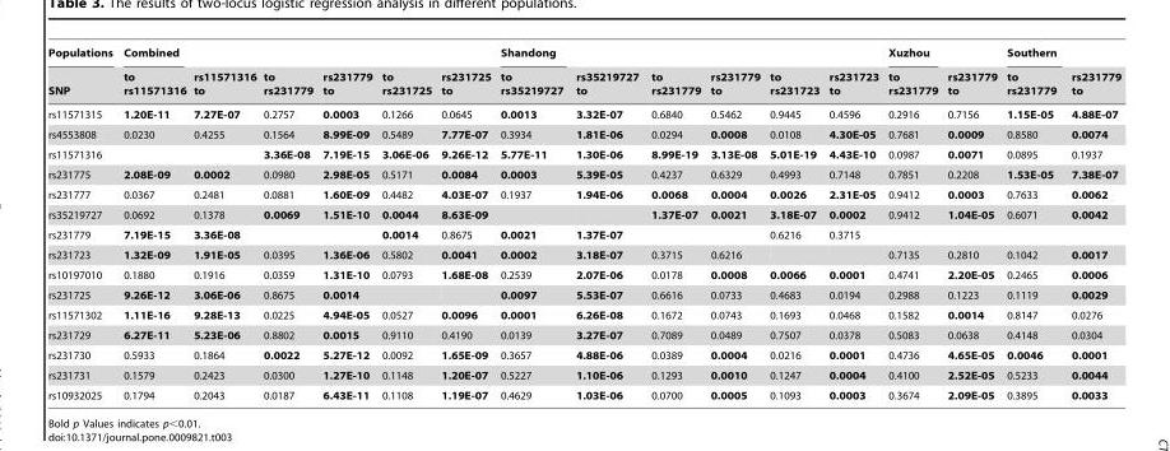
<table><thead><tr><td rowspan="2">Populations SNP</td><td rowspan="2">Combined to rs11571316</td><td rowspan="2">rs11571316 to</td><td rowspan="2">to rs231779</td><td rowspan="2">rs231779 to</td><td rowspan="2">to rs231725</td><td rowspan="2">rs231725 to</td><td rowspan="2">Shandong to rs35219727</td><td rowspan="2">rs35219727 to</td><td rowspan="2">to rs231779</td><td rowspan="2">rs231779 to</td><td rowspan="2">to rs231723</td><td rowspan="2">rs231723 to</td><td rowspan="2">Xuzhou to rs231779</td><td rowspan="2">rs231779 to</td><td rowspan="2">Southern to rs231779</td><td rowspan="2">rs231779 to</td></tr><tr></tr></thead><tbody><tr><td>rs11571315</td><td>1.20E-11</td><td>7.27E-07</td><td>0.2757</td><td>0.0003</td><td>0.1266</td><td>0.0645</td><td>0.0013</td><td>3.32E-07</td><td>0.6840</td><td>0.5462</td><td>0.9445</td><td>0.4596</td><td>0.2916</td><td>0.7156</td><td>1.15E-05</td><td>4.88E-07</td></tr><tr><td>rs4553808</td><td>0.0230</td><td>0.4255</td><td>0.1564</td><td>8.99E-09</td><td>0.5489</td><td>7.77E-07</td><td>0.3934</td><td>1.81E-06</td><td>0.0294</td><td>0.0008</td><td>0.0108</td><td>4.30E-05</td><td>0.7681</td><td>0.0009</td><td>0.8580</td><td>0.0074</td></tr><tr><td>rs11571316</td><td></td><td></td><td>3.36E-08</td><td>7.19E-15</td><td>3.06E-06</td><td>9.26E-12</td><td>5.77E-11</td><td>1.30E-06</td><td>8.99E-19</td><td>3.13E-08</td><td>5.01E-19</td><td>4.43E-10</td><td>0.0987</td><td>0.0071</td><td>0.0895</td><td>0.1937</td></tr><tr><td>rs231775</td><td>2.08E-09</td><td>0.0002</td><td>0.0980</td><td>2.98E-05</td><td>0.5171</td><td>0.0084</td><td>0.0003</td><td>5.39E-05</td><td>0.4237</td><td>0.6329</td><td>0.4993</td><td>0.7148</td><td>0.7851</td><td>0.2208</td><td>1.53E-05</td><td>7.38E-07</td></tr><tr><td>rs231777</td><td>0.0367</td><td>0.2481</td><td>0.0881</td><td>1.60E-09</td><td>0.4482</td><td>4.03E-07</td><td>0.1937</td><td>1.94E-06</td><td>0.0068</td><td>0.0004</td><td>0.0026</td><td>2.31E-05</td><td>0.9412</td><td>0.0003</td><td>0.7633</td><td>0.0062</td></tr><tr><td>rs35219727</td><td>0.0692</td><td>0.1378</td><td>0.0069</td><td>1.51E-10</td><td>0.0044</td><td>8.63E-09</td><td></td><td></td><td>1.37E-07</td><td>0.0021</td><td>3.18E-07</td><td>0.0002</td><td>0.9412</td><td>1.04E-05</td><td>0.6071</td><td>0.0042</td></tr><tr><td>rs231779</td><td>7.19E-15</td><td>3.36E-08</td><td></td><td></td><td>0.0014</td><td>0.8675</td><td>0.0021</td><td>1.37E-07</td><td></td><td></td><td>0.6216</td><td>0.3715</td><td></td><td></td><td></td><td></td></tr><tr><td>rs231723</td><td>1.32E-09</td><td>1.91E-05</td><td>0.0395</td><td>1.36E-06</td><td>0.5802</td><td>0.0041</td><td>0.0002</td><td>3.18E-07</td><td>0.3715</td><td>0.6216</td><td></td><td></td><td>0.7135</td><td>0.2810</td><td>0.1042</td><td>0.0017</td></tr><tr><td>rs10197010</td><td>0.1880</td><td>0.1916</td><td>0.0359</td><td>1.31E-10</td><td>0.0793</td><td>1.68E-08</td><td>0.2539</td><td>2.07E-06</td><td>0.0178</td><td>0.0008</td><td>0.0066</td><td>0.0001</td><td>0.4741</td><td>2.20E-05</td><td>0.2465</td><td>0.0006</td></tr><tr><td>rs231725</td><td>9.26E-12</td><td>3.06E-06</td><td>0.8675</td><td>0.0014</td><td></td><td></td><td>0.0097</td><td>5.53E-07</td><td>0.6616</td><td>0.0733</td><td>0.4683</td><td>0.0194</td><td>0.2988</td><td>0.1223</td><td>0.1119</td><td>0.0029</td></tr><tr><td>rs11571302</td><td>1.11E-16</td><td>9.28E-13</td><td>0.0225</td><td>4.94E-05</td><td>0.0527</td><td>0.0096</td><td>0.0001</td><td>6.26E-08</td><td>0.1672</td><td>0.0743</td><td>0.1693</td><td>0.0468</td><td>0.1582</td><td>0.0014</td><td>0.8147</td><td>0.0276</td></tr><tr><td>rs231729</td><td>6.27E-11</td><td>5.23E-06</td><td>0.8802</td><td>0.0015</td><td>0.9110</td><td>0.4190</td><td>0.0139</td><td>3.27E-07</td><td>0.7089</td><td>0.0489</td><td>0.7507</td><td>0.0378</td><td>0.5083</td><td>0.0638</td><td>0.4148</td><td>0.0304</td></tr><tr><td>rs231730</td><td>0.5933</td><td>0.1864</td><td>0.0022</td><td>5.27E-12</td><td>0.0092</td><td>1.65E-09</td><td>0.3657</td><td>4.88E-06</td><td>0.0389</td><td>0.0004</td><td>0.0216</td><td>0.0001</td><td>0.4736</td><td>4.65E-05</td><td>0.0046</td><td>0.0001</td></tr><tr><td>rs231731</td><td>0.1579</td><td>0.2423</td><td>0.0300</td><td>1.27E-10</td><td>0.1148</td><td>1.20E-07</td><td>0.5227</td><td>1.10E-06</td><td>0.1293</td><td>0.0010</td><td>0.1247</td><td>0.0004</td><td>0.4100</td><td>2.52E-05</td><td>0.5233</td><td>0.0044</td></tr><tr><td>rs10932025</td><td>0.1794</td><td>0.2043</td><td>0.0187</td><td>6.43E-11</td><td>0.1108</td><td>1.19E-07</td><td>0.4629</td><td>1.03E-06</td><td>0.0700</td><td>0.0005</td><td>0.1093</td><td>0.0003</td><td>0.3674</td><td>2.09E-05</td><td>0.3895</td><td>0.0033</td></tr></tbody></table>